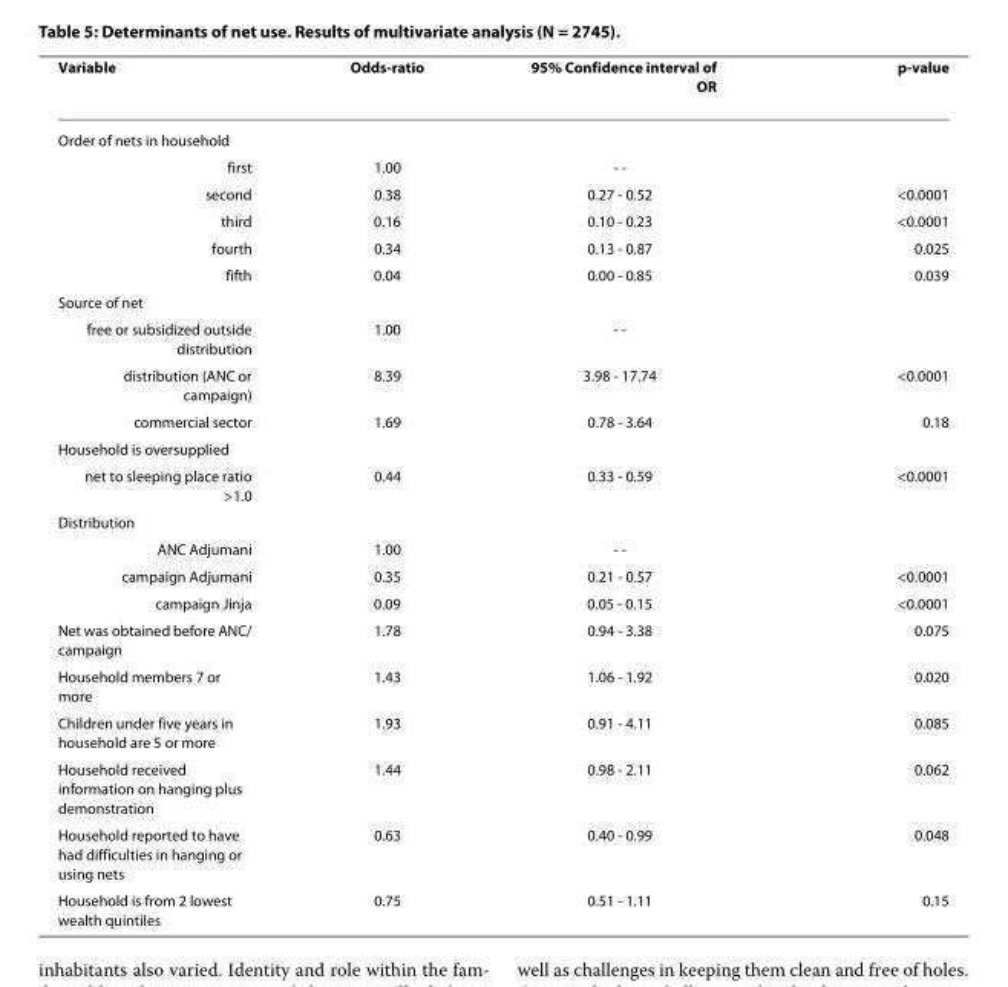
<table><thead><tr><td>Variable</td><td>Odds-ratio</td><td>95% Confidence interval of OR</td><td>p-value</td></tr></thead><tbody><tr><td colspan="4">Order of nets in household</td></tr><tr><td>first</td><td>1.00</td><td>- -</td><td></td></tr><tr><td>second</td><td>0.38</td><td>0.27 - 0.52</td><td>&lt;0.0001</td></tr><tr><td>third</td><td>0.16</td><td>0.10 - 0.23</td><td>&lt;0.0001</td></tr><tr><td>fourth</td><td>0.34</td><td>0.13 - 0.87</td><td>0.025</td></tr><tr><td>fifth</td><td>0.04</td><td>0.00 - 0.85</td><td>0.039</td></tr><tr><td colspan="4">Source of net</td></tr><tr><td>free or subsidized outside distribution</td><td>1.00</td><td>- -</td><td></td></tr><tr><td>distribution (ANC or campaign)</td><td>8.39</td><td>3.98 - 17.74</td><td>&lt;0.0001</td></tr><tr><td>commercial sector</td><td>1.69</td><td>0.78 - 3.64</td><td>0.18</td></tr><tr><td colspan="4">Household is oversupplied</td></tr><tr><td>net to sleeping place ratio &gt;1.0</td><td>0.44</td><td>0.33 - 0.59</td><td>&lt;0.0001</td></tr><tr><td colspan="4">Distribution</td></tr><tr><td>ANC Adjumani</td><td>1.00</td><td>- -</td><td></td></tr><tr><td>campaign Adjumani</td><td>0.35</td><td>0.21 - 0.57</td><td>&lt;0.0001</td></tr><tr><td>campaign Jinja</td><td>0.09</td><td>0.05 - 0.15</td><td>&lt;0.0001</td></tr><tr><td>Net was obtained before ANC/ campaign</td><td>1.78</td><td>0.94 - 3.38</td><td>0.075</td></tr><tr><td>Household members 7 or more</td><td>1.43</td><td>1.06 - 1.92</td><td>0.020</td></tr><tr><td>Children under five years in household are 5 or more</td><td>1.93</td><td>0.91 - 4.11</td><td>0.085</td></tr><tr><td>Household received information on hanging plus demonstration</td><td>1.44</td><td>0.98 - 2.11</td><td>0.062</td></tr><tr><td>Household reported to have had difficulties in hanging or using nets</td><td>0.63</td><td>0.40 - 0.99</td><td>0.048</td></tr><tr><td>Household is from 2 lowest wealth quintiles</td><td>0.75</td><td>0.51 - 1.11</td><td>0.15</td></tr></tbody></table>